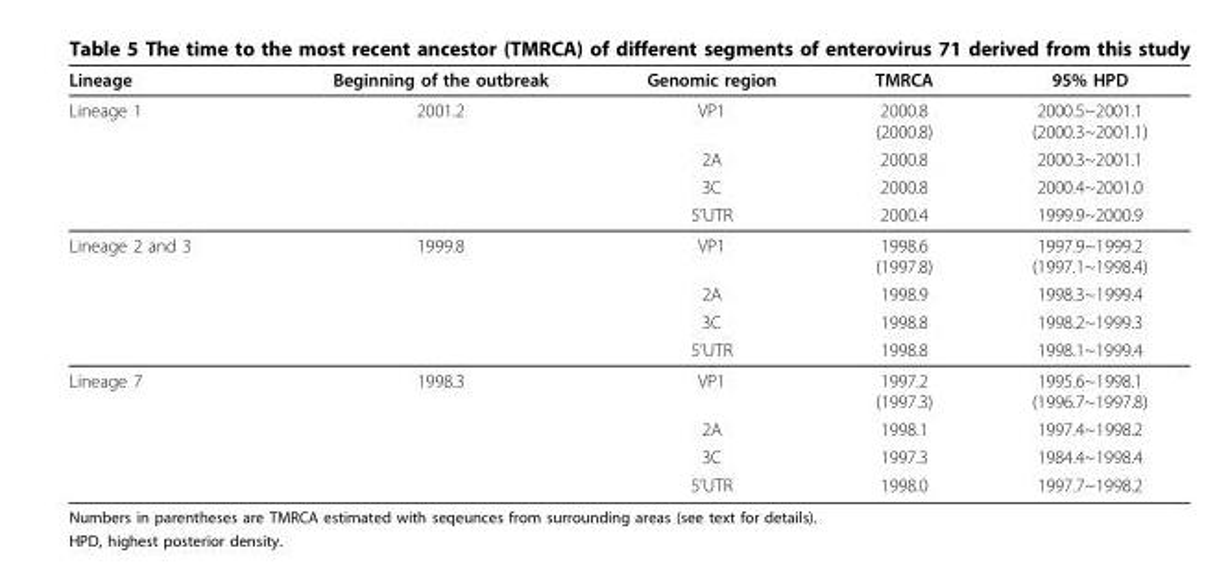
<table><thead><tr><td>Lineage</td><td>Beginning of the outbreak</td><td>Genomic region</td><td>TMRCA</td><td>95% HPD</td></tr></thead><tbody><tr><td rowspan="4">Lineage 1</td><td>2001.2</td><td>VP1</td><td>2000.8 (2000.8)</td><td>2000.5~2001.1 (2000.3~2001.1)</td></tr><tr><td></td><td>2A</td><td>2000.8</td><td>2000.3~2001.1</td></tr><tr><td></td><td>3C</td><td>2000.8</td><td>2000.4~2001.0</td></tr><tr><td></td><td>5’UTR</td><td>2000.4</td><td>1999.9~2000.9</td></tr><tr><td rowspan="4">Lineage 2 and 3</td><td>1999.8</td><td>VP1</td><td>1998.6 (1997.8)</td><td>1997.9~1999.2 (1997.1~1998.4)</td></tr><tr><td></td><td>2A</td><td>1998.9</td><td>1998.3~1999.4</td></tr><tr><td></td><td>3C</td><td>1998.8</td><td>1998.2~1999.3</td></tr><tr><td></td><td>5’UTR</td><td>1998.8</td><td>1998.1~1999.4</td></tr><tr><td rowspan="4">Lineage 7</td><td>1998.3</td><td>VP1</td><td>1997.2 (1997.3)</td><td>1995.6~1998.1 (1996.7~1997.8)</td></tr><tr><td></td><td>2A</td><td>1998.1</td><td>1997.4~1998.2</td></tr><tr><td></td><td>3C</td><td>1997.3</td><td>1984.4~1998.4</td></tr><tr><td></td><td>5’UTR</td><td>1998.0</td><td>1997.7~1998.2</td></tr></tbody></table>